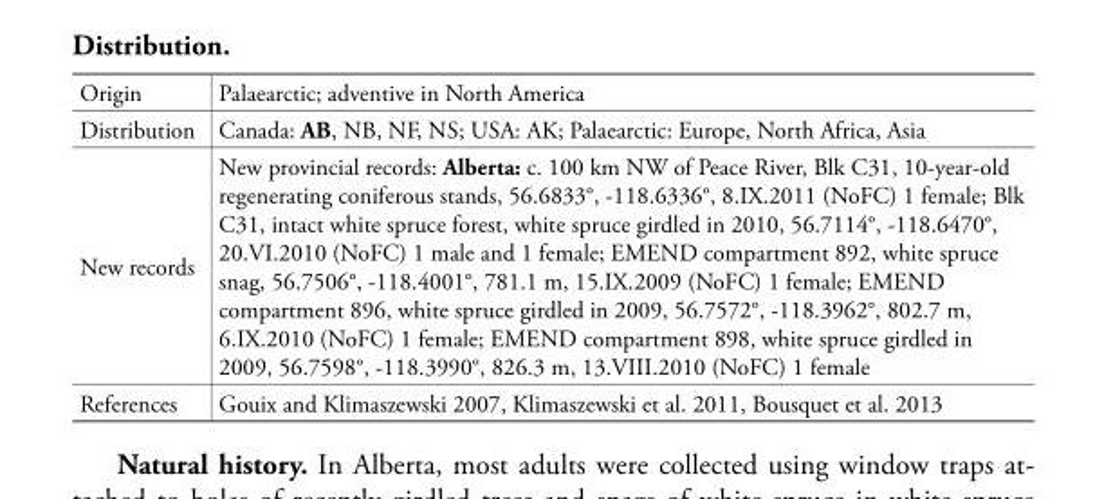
<table><tbody><tr><td>Origin</td><td>Palaearctic; adventive in North America</td></tr><tr><td>Distribution</td><td>Canada: AB, NB, NF, NS; USA: AK; Palaearctic: Europe, North Africa, Asia</td></tr><tr><td>New records</td><td>New provincial records: Alberta: c. 100 km NW of Peace River, Blk C31, 10-year-old regenerating coniferous stands, 56.6833°, -118.6336°, 8.IX.2011 (NoFC) 1 female; Blk C31, intact white spruce forest, white spruce girdled in 2010, 56.7114°, -118.6470°, 20.VI.2010 (NoFC) 1 male and 1 female; EMEND compartment 892, white spruce snag, 56.7506°, -118.4001°, 781.1 m, 15.IX.2009 (NoFC) 1 female; EMEND compartment 896, white spruce girdled in 2009, 56.7572°, -118.3962°, 802.7 m, 6.IX.2010 (NoFC) 1 female; EMEND compartment 898, white spruce girdled in 2009, 56.7598°, -118.3990°, 826.3 m, 13.VIII.2010 (NoFC) 1 female</td></tr><tr><td>References</td><td>Gouix and Klimaszewski 2007, Klimaszewski et al. 2011, Bousquet et al. 2013</td></tr></tbody></table>